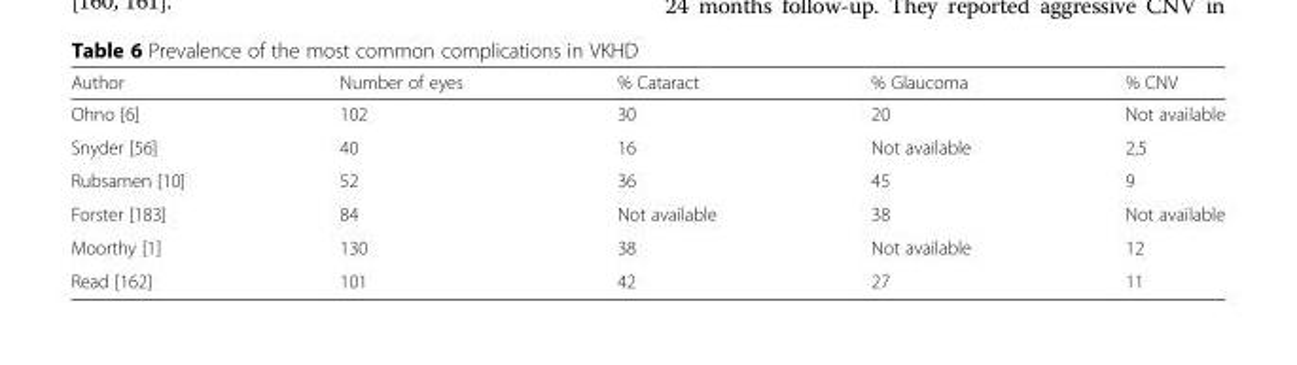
<table><thead><tr><td>Author</td><td>Number of eyes</td><td>% Cataract</td><td>% Glaucoma</td><td>% CNV</td></tr></thead><tbody><tr><td>Ohno [6]</td><td>102</td><td>30</td><td>20</td><td>Not available</td></tr><tr><td>Snyder [56]</td><td>40</td><td>16</td><td>Not available</td><td>2,5</td></tr><tr><td>Rubsamen [10]</td><td>52</td><td>36</td><td>45</td><td>9</td></tr><tr><td>Forster [183]</td><td>84</td><td>Not available</td><td>38</td><td>Not available</td></tr><tr><td>Moorthy [1]</td><td>130</td><td>38</td><td>Not available</td><td>12</td></tr><tr><td>Read [162]</td><td>101</td><td>42</td><td>27</td><td>11</td></tr></tbody></table>